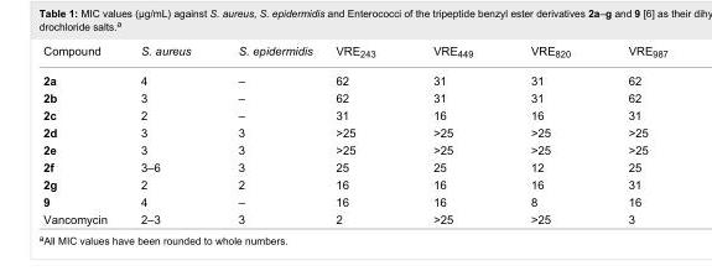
<table><tbody><tr><td>Compound</td><td>S. aureus</td><td>S. epidermidis</td><td>VRE<sub>243</sub></td><td>VRE<sub>449</sub></td><td>VRE<sub>820</sub></td><td>VRE<sub>987</sub></td></tr><tr><td>2a</td><td>4</td><td>–</td><td>62</td><td>31</td><td>31</td><td>62</td></tr><tr><td>2b</td><td>3</td><td>–</td><td>62</td><td>31</td><td>31</td><td>62</td></tr><tr><td>2c</td><td>2</td><td>–</td><td>31</td><td>16</td><td>16</td><td>31</td></tr><tr><td>2d</td><td>3</td><td>3</td><td>&gt;25</td><td>&gt;25</td><td>&gt;25</td><td>&gt;25</td></tr><tr><td>2e</td><td>3</td><td>3</td><td>&gt;25</td><td>&gt;25</td><td>&gt;25</td><td>&gt;25</td></tr><tr><td>2f</td><td>3–6</td><td>3</td><td>25</td><td>25</td><td>12</td><td>25</td></tr><tr><td>2g</td><td>2</td><td>2</td><td>16</td><td>16</td><td>16</td><td>31</td></tr><tr><td>9</td><td>4</td><td>–</td><td>16</td><td>16</td><td>8</td><td>16</td></tr><tr><td>Vancomycin</td><td>2–3</td><td>3</td><td>2</td><td>&gt;25</td><td>&gt;25</td><td>3</td></tr></tbody></table>